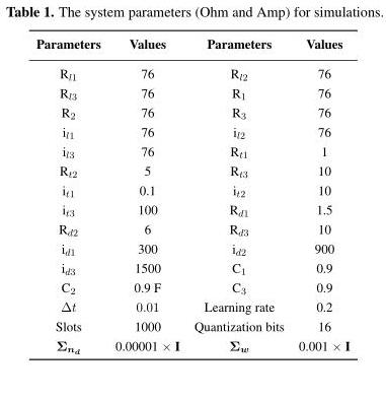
<table><thead><tr><td>Parameters</td><td>Values</td><td>Parameters</td><td>Values</td></tr></thead><tbody><tr><td>R<sub>l1</sub></td><td>76</td><td>R<sub>l2</sub></td><td>76</td></tr><tr><td>R<sub>l3</sub></td><td>76</td><td>R<sub>1</sub></td><td>76</td></tr><tr><td>R<sub>2</sub></td><td>76</td><td>R<sub>3</sub></td><td>76</td></tr><tr><td>i<sub>l1</sub></td><td>76</td><td>i<sub>l2</sub></td><td>76</td></tr><tr><td>i<sub>l3</sub></td><td>76</td><td>R<sub>t1</sub></td><td>1</td></tr><tr><td>R<sub>t2</sub></td><td>5</td><td>R<sub>t3</sub></td><td>10</td></tr><tr><td>i<sub>t1</sub></td><td>0.1</td><td>i<sub>t2</sub></td><td>10</td></tr><tr><td>i<sub>t3</sub></td><td>100</td><td>R<sub>d1</sub></td><td>1.5</td></tr><tr><td>R<sub>d2</sub></td><td>6</td><td>R<sub>d3</sub></td><td>10</td></tr><tr><td>i<sub>d1</sub></td><td>300</td><td>i<sub>d2</sub></td><td>900</td></tr><tr><td>i<sub>d3</sub></td><td>1500</td><td>C<sub>1</sub></td><td>0.9</td></tr><tr><td>C<sub>2</sub></td><td>0.9 F</td><td>C<sub>3</sub></td><td>0.9</td></tr><tr><td>∆t</td><td>0.01</td><td>Learning rate</td><td>0.2</td></tr><tr><td>Slots</td><td>1000</td><td>Quantization bits</td><td>16</td></tr><tr><td>Σnd</td><td>0.00001 × I</td><td>Σ<sub>w</sub></td><td>0.001 × I</td></tr></tbody></table>